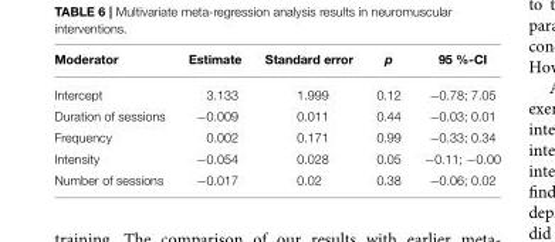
<table><thead><tr><td>Moderator</td><td>Estimate</td><td>Standard error</td><td>p</td><td>95 %-CI</td></tr></thead><tbody><tr><td>Intercept</td><td>3.133</td><td>1.999</td><td>0.12</td><td>−0.78; 7.05</td></tr><tr><td>Duration of sessions</td><td>−0.009</td><td>0.011</td><td>0.44</td><td>−0.03; 0.01</td></tr><tr><td>Frequency</td><td>0.002</td><td>0.171</td><td>0.99</td><td>−0.33; 0.34</td></tr><tr><td>Intensity</td><td>−0.054</td><td>0.028</td><td>0.05</td><td>−0.11; −0.00</td></tr><tr><td>Number of sessions</td><td>−0.017</td><td>0.02</td><td>0.38</td><td>−0.06; 0.02</td></tr></tbody></table>